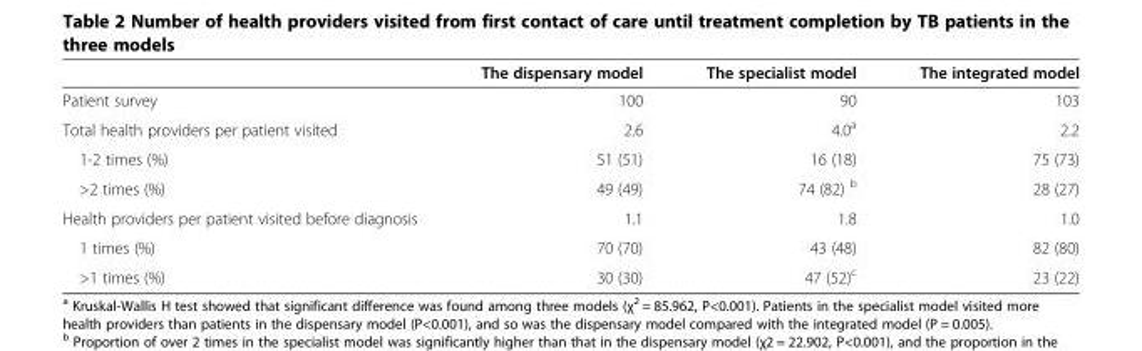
<table><thead><tr><td></td><td>The dispensary model</td><td>The specialist model</td><td>The integrated model</td></tr></thead><tbody><tr><td>Patient survey</td><td>100</td><td>90</td><td>103</td></tr><tr><td>Total health providers per patient visited</td><td>2.6</td><td>4.0<sup>a</sup></td><td>2.2</td></tr><tr><td>1-2 times (%)</td><td>51 (51)</td><td>16 (18)</td><td>75 (73)</td></tr><tr><td>&gt;2 times (%)</td><td>49 (49)</td><td>74 (82) <sup>b</sup></td><td>28 (27)</td></tr><tr><td>Health providers per patient visited before diagnosis</td><td>1.1</td><td>1.8</td><td>1.0</td></tr><tr><td>1 times (%)</td><td>70 (70)</td><td>43 (48)</td><td>82 (80)</td></tr><tr><td>&gt;1 times (%)</td><td>30 (30)</td><td>47 (52)<sup>c</sup></td><td>23 (22)</td></tr></tbody></table>